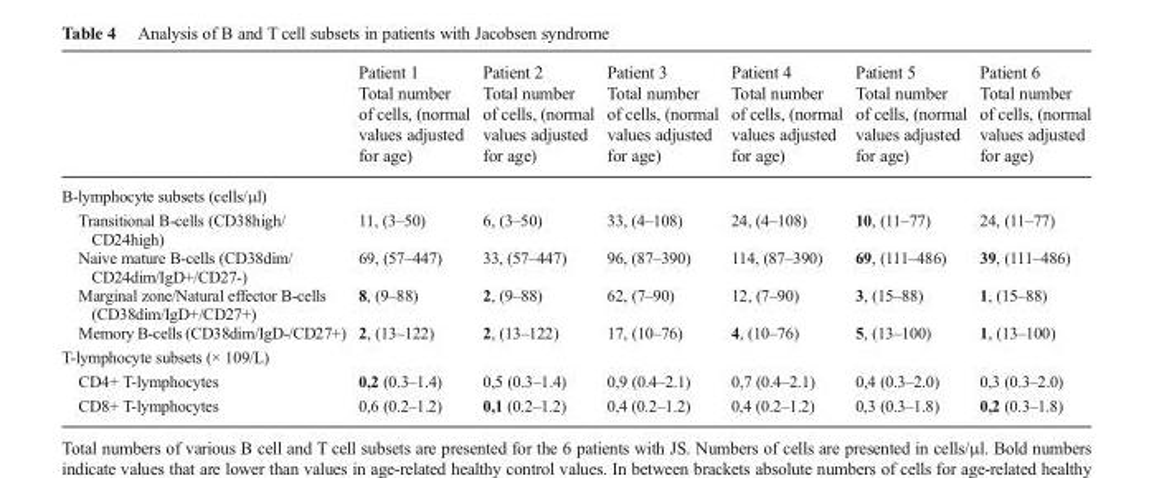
<table><thead><tr><td rowspan="2"></td><td rowspan="2">Patient 1 Total number of cells, (normal values adjusted for age)</td><td rowspan="2">Patient 2 Total number of cells, (normal values adjusted for age)</td><td rowspan="2">Patient 3 Total number of cells, (normal values adjusted for age)</td><td rowspan="2">Patient 4 Total number of cells, (normal values adjusted for age)</td><td rowspan="2">Patient 5 Total number of cells, (normal values adjusted for age)</td><td rowspan="2">Patient 6 Total number of cells, (normal values adjusted for age)</td></tr><tr></tr></thead><tbody><tr><td colspan="7">B-lymphocyte subsets (cells/μl)</td></tr><tr><td>Transitional B-cells (CD38high/ CD24high)</td><td>11, (3–50)</td><td>6, (3–50)</td><td>33, (4–108)</td><td>24, (4–108)</td><td>10, (11–77)</td><td>24, (11–77)</td></tr><tr><td>Naive mature B-cells (CD38dim/ CD24dim/IgD+/CD27-)</td><td>69, (57–447)</td><td>33, (57–447)</td><td>96, (87–390)</td><td>114, (87–390)</td><td>69, (111–486)</td><td>39, (111–486)</td></tr><tr><td>Marginal zone/Natural effector B-cells (CD38dim/IgD+/CD27+)</td><td>8, (9–88)</td><td>2, (9–88)</td><td>62, (7–90)</td><td>12, (7–90)</td><td>3, (15–88)</td><td>1, (15–88)</td></tr><tr><td>Memory B-cells (CD38dim/IgD-/CD27+)</td><td>2, (13–122)</td><td>2, (13–122)</td><td>17, (10–76)</td><td>4, (10–76)</td><td>5, (13–100)</td><td>1, (13–100)</td></tr><tr><td colspan="7">T-lymphocyte subsets (× 109/L)</td></tr><tr><td>CD4+ T-lymphocytes</td><td>0,2 (0.3–1.4)</td><td>0,5 (0.3–1.4)</td><td>0,9 (0.4–2.1)</td><td>0,7 (0.4–2.1)</td><td>0,4 (0.3–2.0)</td><td>0,3 (0.3–2.0)</td></tr><tr><td>CD8+ T-lymphocytes</td><td>0,6 (0.2–1.2)</td><td>0,1 (0.2–1.2)</td><td>0,4 (0.2–1.2)</td><td>0,4 (0.2–1.2)</td><td>0,3 (0.3–1.8)</td><td>0,2 (0.3–1.8)</td></tr></tbody></table>